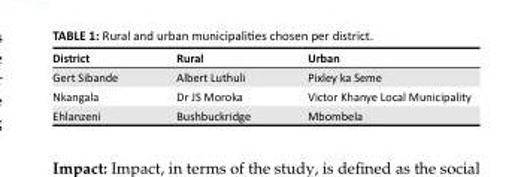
<table><thead><tr><td>District</td><td>Rural</td><td>Urban</td></tr></thead><tbody><tr><td>Gert Sibande</td><td>Albert Luthuli</td><td>Pixley ka Seme</td></tr><tr><td>Nkangala</td><td>Dr JS Moroka</td><td>Victor Khanye Local Municipality</td></tr><tr><td>Ehlanzeni</td><td>Bushbuckridge</td><td>Mbombela</td></tr></tbody></table>